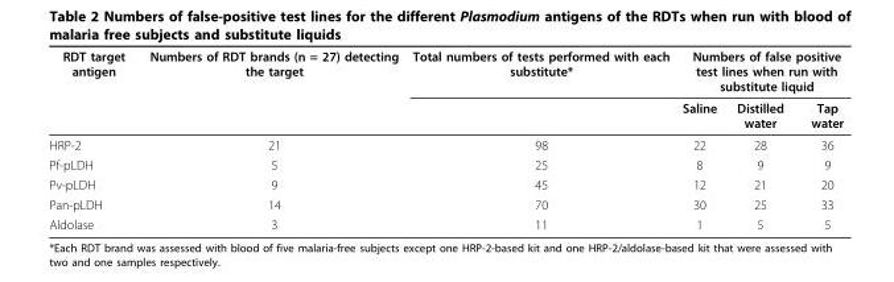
<table><thead><tr><td rowspan="2">RDT target antigen</td><td rowspan="2">Numbers of RDT brands (n = 27) detecting the target</td><td rowspan="2">Total numbers of tests performed with each substitute*</td><td colspan="3">Numbers of false positive test lines when run with substitute liquid</td></tr><tr><td>Saline</td><td>Distilled water</td><td>Tap water</td></tr></thead><tbody><tr><td>HRP-2</td><td>21</td><td>98</td><td>22</td><td>28</td><td>36</td></tr><tr><td>Pf-pLDH</td><td>5</td><td>25</td><td>8</td><td>9</td><td>9</td></tr><tr><td>Pv-pLDH</td><td>9</td><td>45</td><td>12</td><td>21</td><td>20</td></tr><tr><td>Pan-pLDH</td><td>14</td><td>70</td><td>30</td><td>25</td><td>33</td></tr><tr><td>Aldolase</td><td>3</td><td>11</td><td>1</td><td>5</td><td>5</td></tr></tbody></table>